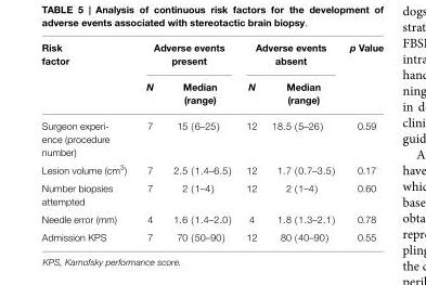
<table><thead><tr><td rowspan="2">Risk factor</td><td colspan="2">Adverse events present</td><td colspan="2">Adverse events absent</td><td rowspan="2">p Value</td></tr><tr><td>N</td><td>Median (range)</td><td>N</td><td>Median (range)</td></tr></thead><tbody><tr><td>Surgeon experi- ence (procedure number)</td><td>7</td><td>15 (6–25)</td><td>12</td><td>18.5 (5–26)</td><td>0.59</td></tr><tr><td>Lesion volume (cm<sup>3</sup>)</td><td>7</td><td>2.5 (1.4–6.5)</td><td>12</td><td>1.7 (0.7–3.5)</td><td>0.17</td></tr><tr><td>Number biopsies attempted</td><td>7</td><td>2 (1–4)</td><td>12</td><td>2 (1–4)</td><td>0.60</td></tr><tr><td>Needle error (mm)</td><td>4</td><td>1.6 (1.4–2.0)</td><td>4</td><td>1.8 (1.3–2.1)</td><td>0.78</td></tr><tr><td>Admission KPS</td><td>7</td><td>70 (50–90)</td><td>12</td><td>80 (40–90)</td><td>0.55</td></tr></tbody></table>